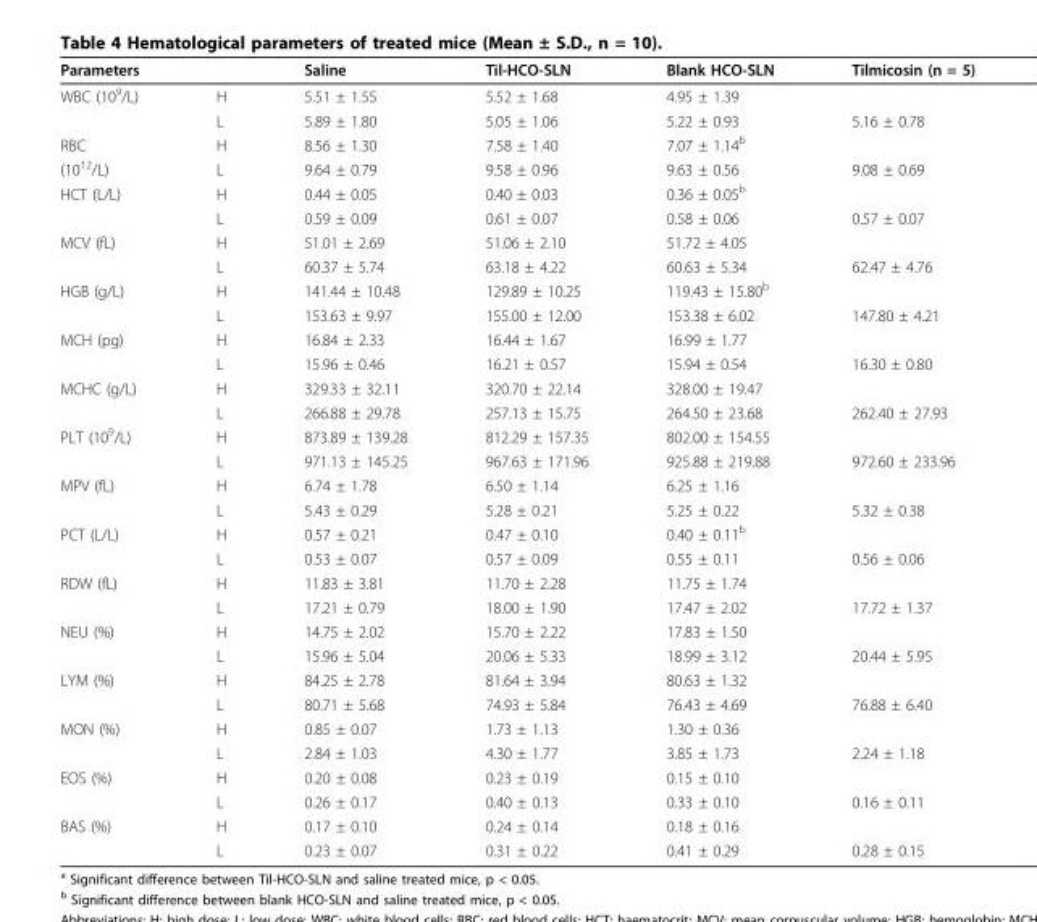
<table><thead><tr><td colspan="2">Parameters</td><td rowspan="2">Saline 5.51 ± 1.55</td><td rowspan="2">Til-HCO-SLN 5.52 ± 1.68</td><td rowspan="2">Blank HCO-SLN 4.95 ± 1.39</td><td rowspan="2">Tilmicosin (n = 5)</td></tr><tr><td>WBC (10<sup>9</sup>/L)</td><td>H</td></tr></thead><tbody><tr><td></td><td>L</td><td>5.89 ± 1.80</td><td>5.05 ± 1.06</td><td>5.22 ± 0.93</td><td>5.16 ± 0.78</td></tr><tr><td>RBC</td><td>H</td><td>8.56 ± 1.30</td><td>7.58 ± 1.40</td><td>7.07 ± 1.14<sup>b</sup></td><td></td></tr><tr><td>(10<sup>12</sup>/L)</td><td>L</td><td>9.64 ± 0.79</td><td>9.58 ± 0.96</td><td>9.63 ± 0.56</td><td>9.08 ± 0.69</td></tr><tr><td rowspan="2">HCT (L/L)</td><td>H</td><td>0.44 ± 0.05</td><td>0.40 ± 0.03</td><td>0.36 ± 0.05<sup>b</sup></td><td></td></tr><tr><td>L</td><td>0.59 ± 0.09</td><td>0.61 ± 0.07</td><td>0.58 ± 0.06</td><td>0.57 ± 0.07</td></tr><tr><td rowspan="2">MCV (fL)</td><td>H</td><td>51.01 ± 2.69</td><td>51.06 ± 2.10</td><td>51.72 ± 4.05</td><td></td></tr><tr><td>L</td><td>60.37 ± 5.74</td><td>63.18 ± 4.22</td><td>60.63 ± 5.34</td><td>62.47 ± 4.76</td></tr><tr><td rowspan="2">HGB (g/L)</td><td>H</td><td>141.44 ± 10.48</td><td>129.89 ± 10.25</td><td>119.43 ± 15.80<sup>b</sup></td><td></td></tr><tr><td>L</td><td>153.63 ± 9.97</td><td>155.00 ± 12.00</td><td>153.38 ± 6.02</td><td>147.80 ± 4.21</td></tr><tr><td rowspan="2">MCH (pg)</td><td>H</td><td>16.84 ± 2.33</td><td>16.44 ± 1.67</td><td>16.99 ± 1.77</td><td></td></tr><tr><td>L</td><td>15.96 ± 0.46</td><td>16.21 ± 0.57</td><td>15.94 ± 0.54</td><td>16.30 ± 0.80</td></tr><tr><td rowspan="2">MCHC (g/L)</td><td>H</td><td>329.33 ± 32.11</td><td>320.70 ± 22.14</td><td>328.00 ± 19.47</td><td></td></tr><tr><td>L</td><td>266.88 ± 29.78</td><td>257.13 ± 15.75</td><td>264.50 ± 23.68</td><td>262.40 ± 27.93</td></tr><tr><td rowspan="2">PLT (10<sup>9</sup>/L)</td><td>H</td><td>873.89 ± 139.28</td><td>812.29 ± 157.35</td><td>802.00 ± 154.55</td><td></td></tr><tr><td>L</td><td>971.13 ± 145.25</td><td>967.63 ± 171.96</td><td>925.88 ± 219.88</td><td>972.60 ± 233.96</td></tr><tr><td rowspan="2">MPV (fL)</td><td>H</td><td>6.74 ± 1.78</td><td>6.50 ± 1.14</td><td>6.25 ± 1.16</td><td></td></tr><tr><td>L</td><td>5.43 ± 0.29</td><td>5.28 ± 0.21</td><td>5.25 ± 0.22</td><td>5.32 ± 0.38</td></tr><tr><td rowspan="2">PCT (L/L)</td><td>H</td><td>0.57 ± 0.21</td><td>0.47 ± 0.10</td><td>0.40 ± 0.11<sup>b</sup></td><td></td></tr><tr><td>L</td><td>0.53 ± 0.07</td><td>0.57 ± 0.09</td><td>0.55 ± 0.11</td><td>0.56 ± 0.06</td></tr><tr><td rowspan="2">RDW (fL)</td><td>H</td><td>11.83 ± 3.81</td><td>11.70 ± 2.28</td><td>11.75 ± 1.74</td><td></td></tr><tr><td>L</td><td>17.21 ± 0.79</td><td>18.00 ± 1.90</td><td>17.47 ± 2.02</td><td>17.72 ± 1.37</td></tr><tr><td rowspan="2">NEU (%)</td><td>H</td><td>14.75 ± 2.02</td><td>15.70 ± 2.22</td><td>17.83 ± 1.50</td><td></td></tr><tr><td>L</td><td>15.96 ± 5.04</td><td>20.06 ± 5.33</td><td>18.99 ± 3.12</td><td>20.44 ± 5.95</td></tr><tr><td rowspan="2">LYM (%)</td><td>H</td><td>84.25 ± 2.78</td><td>81.64 ± 3.94</td><td>80.63 ± 1.32</td><td></td></tr><tr><td>L</td><td>80.71 ± 5.68</td><td>74.93 ± 5.84</td><td>76.43 ± 4.69</td><td>76.88 ± 6.40</td></tr><tr><td rowspan="2">MON (%)</td><td>H</td><td>0.85 ± 0.07</td><td>1.73 ± 1.13</td><td>1.30 ± 0.36</td><td></td></tr><tr><td>L</td><td>2.84 ± 1.03</td><td>4.30 ± 1.77</td><td>3.85 ± 1.73</td><td>2.24 ± 1.18</td></tr><tr><td rowspan="2">EOS (%)</td><td>H</td><td>0.20 ± 0.08</td><td>0.23 ± 0.19</td><td>0.15 ± 0.10</td><td></td></tr><tr><td>L</td><td>0.26 ± 0.17</td><td>0.40 ± 0.13</td><td>0.33 ± 0.10</td><td>0.16 ± 0.11</td></tr><tr><td rowspan="2">BAS (%)</td><td>H</td><td>0.17 ± 0.10</td><td>0.24 ± 0.14</td><td>0.18 ± 0.16</td><td></td></tr><tr><td>L</td><td>0.23 ± 0.07</td><td>0.31 ± 0.22</td><td>0.41 ± 0.29</td><td>0.28 ± 0.15</td></tr></tbody></table>